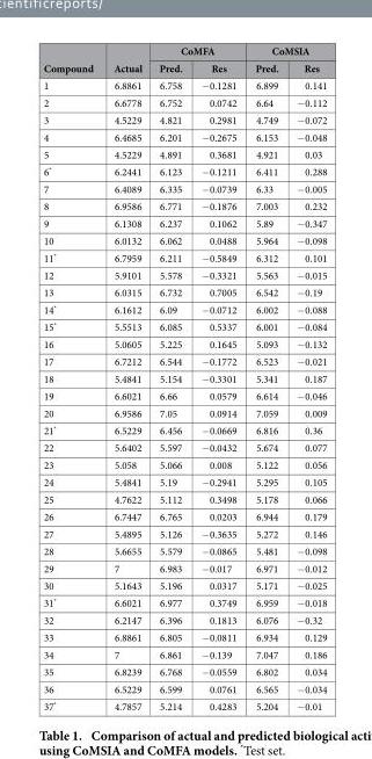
<table><thead><tr><td rowspan="2">Compound</td><td rowspan="2">Actual</td><td colspan="2">CoMFA</td><td colspan="2">CoMSIA</td></tr><tr><td>Pred.</td><td>Res</td><td>Pred.</td><td>Res</td></tr></thead><tbody><tr><td>1</td><td>6.8861</td><td>6.758</td><td>− 0.1281</td><td>6.899</td><td>0.141</td></tr><tr><td>2</td><td>6.6778</td><td>6.752</td><td>0.0742</td><td>6.64</td><td>− 0.112</td></tr><tr><td>3</td><td>4.5229</td><td>4.821</td><td>0.2981</td><td>4.749</td><td>− 0.072</td></tr><tr><td>4</td><td>6.4685</td><td>6.201</td><td>− 0.2675</td><td>6.153</td><td>− 0.048</td></tr><tr><td>5</td><td>4.5229</td><td>4.891</td><td>0.3681</td><td>4.921</td><td>0.03</td></tr><tr><td>6*</td><td>6.2441</td><td>6.123</td><td>− 0.1211</td><td>6.411</td><td>0.288</td></tr><tr><td>7</td><td>6.4089</td><td>6.335</td><td>− 0.0739</td><td>6.33</td><td>− 0.005</td></tr><tr><td>8</td><td>6.9586</td><td>6.771</td><td>− 0.1876</td><td>7.003</td><td>0.232</td></tr><tr><td>9</td><td>6.1308</td><td>6.237</td><td>0.1062</td><td>5.89</td><td>− 0.347</td></tr><tr><td>10</td><td>6.0132</td><td>6.062</td><td>0.0488</td><td>5.964</td><td>− 0.098</td></tr><tr><td>11*</td><td>6.7959</td><td>6.211</td><td>− 0.5849</td><td>6.312</td><td>0.101</td></tr><tr><td>12</td><td>5.9101</td><td>5.578</td><td>− 0.3321</td><td>5.563</td><td>− 0.015</td></tr><tr><td>13</td><td>6.0315</td><td>6.732</td><td>0.7005</td><td>6.542</td><td>− 0.19</td></tr><tr><td>14*</td><td>6.1612</td><td>6.09</td><td>− 0.0712</td><td>6.002</td><td>− 0.088</td></tr><tr><td>15*</td><td>5.5513</td><td>6.085</td><td>0.5337</td><td>6.001</td><td>− 0.084</td></tr><tr><td>16</td><td>5.0605</td><td>5.225</td><td>0.1645</td><td>5.093</td><td>− 0.132</td></tr><tr><td>17</td><td>6.7212</td><td>6.544</td><td>− 0.1772</td><td>6.523</td><td>− 0.021</td></tr><tr><td>18</td><td>5.4841</td><td>5.154</td><td>− 0.3301</td><td>5.341</td><td>0.187</td></tr><tr><td>19</td><td>6.6021</td><td>6.66</td><td>0.0579</td><td>6.614</td><td>− 0.046</td></tr><tr><td>20</td><td>6.9586</td><td>7.05</td><td>0.0914</td><td>7.059</td><td>0.009</td></tr><tr><td>21*</td><td>6.5229</td><td>6.456</td><td>− 0.0669</td><td>6.816</td><td>0.36</td></tr><tr><td>22</td><td>5.6402</td><td>5.597</td><td>− 0.0432</td><td>5.674</td><td>0.077</td></tr><tr><td>23</td><td>5.058</td><td>5.066</td><td>0.008</td><td>5.122</td><td>0.056</td></tr><tr><td>24</td><td>5.4841</td><td>5.19</td><td>− 0.2941</td><td>5.295</td><td>0.105</td></tr><tr><td>25</td><td>4.7622</td><td>5.112</td><td>0.3498</td><td>5.178</td><td>0.066</td></tr><tr><td>26</td><td>6.7447</td><td>6.765</td><td>0.0203</td><td>6.944</td><td>0.179</td></tr><tr><td>27</td><td>5.4895</td><td>5.126</td><td>− 0.3635</td><td>5.272</td><td>0.146</td></tr><tr><td>28</td><td>5.6655</td><td>5.579</td><td>− 0.0865</td><td>5.481</td><td>− 0.098</td></tr><tr><td>29</td><td>7</td><td>6.983</td><td>− 0.017</td><td>6.971</td><td>− 0.012</td></tr><tr><td>30</td><td>5.1643</td><td>5.196</td><td>0.0317</td><td>5.171</td><td>− 0.025</td></tr><tr><td>31*</td><td>6.6021</td><td>6.977</td><td>0.3749</td><td>6.959</td><td>− 0.018</td></tr><tr><td>32</td><td>6.2147</td><td>6.396</td><td>0.1813</td><td>6.076</td><td>− 0.32</td></tr><tr><td>33</td><td>6.8861</td><td>6.805</td><td>− 0.0811</td><td>6.934</td><td>0.129</td></tr><tr><td>34</td><td>7</td><td>6.861</td><td>− 0.139</td><td>7.047</td><td>0.186</td></tr><tr><td>35</td><td>6.8239</td><td>6.768</td><td>− 0.0559</td><td>6.802</td><td>0.034</td></tr><tr><td>36</td><td>6.5229</td><td>6.599</td><td>0.0761</td><td>6.565</td><td>− 0.034</td></tr><tr><td>37*</td><td>4.7857</td><td>5.214</td><td>0.4283</td><td>5.204</td><td>− 0.01</td></tr></tbody></table>